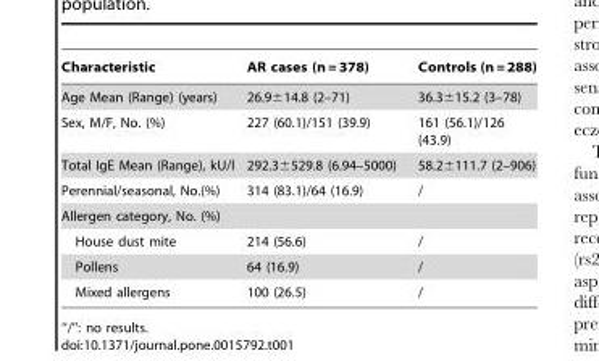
<table><thead><tr><td>Characteristic</td><td>AR cases (n = 378)</td><td>Controls (n = 288)</td></tr></thead><tbody><tr><td>Age Mean (Range) (years)</td><td>26.9±14.8 (2–71)</td><td>36.3±15.2 (3–78)</td></tr><tr><td>Sex, M/F, No. (%)</td><td>227 (60.1)/151 (39.9)</td><td>161 (56.1)/126 (43.9)</td></tr><tr><td>Total IgE Mean (Range), kU/l</td><td>292.3±529.8 (6.94–5000)</td><td>58.2±111.7 (2–906)</td></tr><tr><td>Perennial/seasonal, No.(%)</td><td>314 (83.1)/64 (16.9)</td><td>/</td></tr><tr><td colspan="3">Allergen category, No. (%)</td></tr><tr><td>House dust mite</td><td>214 (56.6)</td><td>/</td></tr><tr><td>Pollens</td><td>64 (16.9)</td><td>/</td></tr><tr><td>Mixed allergens</td><td>100 (26.5)</td><td>/</td></tr></tbody></table>